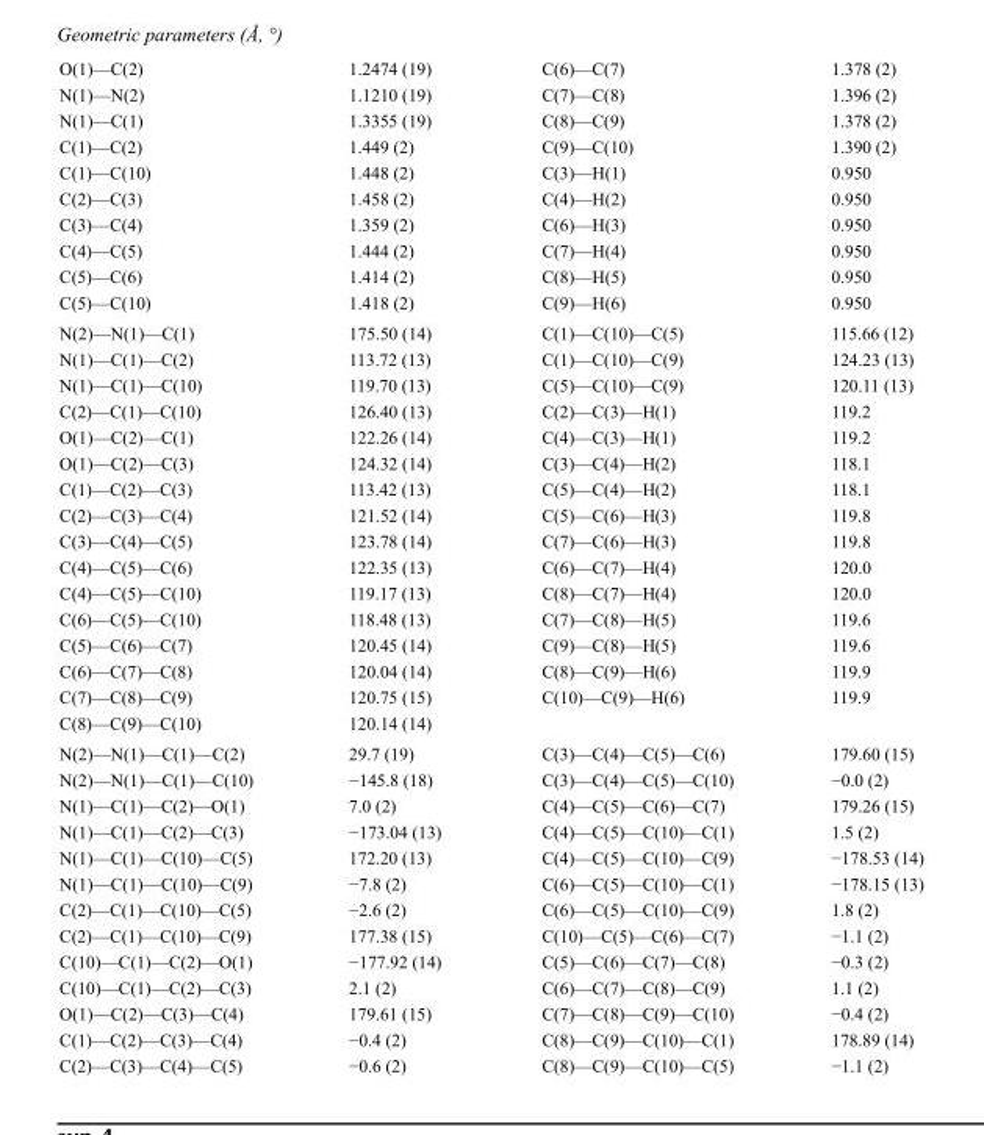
<table><tbody><tr><td>O(1)—C(2)</td><td>1.2474 (19)</td><td>C(6)—C(7)</td><td>1.378 (2)</td></tr><tr><td>N(1)—N(2)</td><td>1.1210 (19)</td><td>C(7)—C(8)</td><td>1.396 (2)</td></tr><tr><td>N(1)—C(1)</td><td>1.3355 (19)</td><td>C(8)—C(9)</td><td>1.378 (2)</td></tr><tr><td>C(1)—C(2)</td><td>1.449 (2)</td><td>C(9)—C(10)</td><td>1.390 (2)</td></tr><tr><td>C(1)—C(10)</td><td>1.448 (2)</td><td>C(3)—H(1)</td><td>0.950</td></tr><tr><td>C(2)—C(3)</td><td>1.458 (2)</td><td>C(4)—H(2)</td><td>0.950</td></tr><tr><td>C(3)—C(4)</td><td>1.359 (2)</td><td>C(6)—H(3)</td><td>0.950</td></tr><tr><td>C(4)—C(5)</td><td>1.444 (2)</td><td>C(7)—H(4)</td><td>0.950</td></tr><tr><td>C(5)—C(6)</td><td>1.414 (2)</td><td>C(8)—H(5)</td><td>0.950</td></tr><tr><td>C(5)—C(10)</td><td>1.418 (2)</td><td>C(9)—H(6)</td><td>0.950</td></tr><tr><td>N(2)—N(1)—C(1)</td><td>175.50 (14)</td><td>C(1)—C(10)—C(5)</td><td>115.66 (12)</td></tr><tr><td>N(1)—C(1)—C(2)</td><td>113.72 (13)</td><td>C(1)—C(10)—C(9)</td><td>124.23 (13)</td></tr><tr><td>N(1)—C(1)—C(10)</td><td>119.70 (13)</td><td>C(5)—C(10)—C(9)</td><td>120.11 (13)</td></tr><tr><td>C(2)—C(1)—C(10)</td><td>126.40 (13)</td><td>C(2)—C(3)—H(1)</td><td>119.2</td></tr><tr><td>O(1)—C(2)—C(1)</td><td>122.26 (14)</td><td>C(4)—C(3)—H(1)</td><td>119.2</td></tr><tr><td>O(1)—C(2)—C(3)</td><td>124.32 (14)</td><td>C(3)—C(4)—H(2)</td><td>118.1</td></tr><tr><td>C(1)—C(2)—C(3)</td><td>113.42 (13)</td><td>C(5)—C(4)—H(2)</td><td>118.1</td></tr><tr><td>C(2)—C(3)—C(4)</td><td>121.52 (14)</td><td>C(5)—C(6)—H(3)</td><td>119.8</td></tr><tr><td>C(3)—C(4)—C(5)</td><td>123.78 (14)</td><td>C(7)—C(6)—H(3)</td><td>119.8</td></tr><tr><td>C(4)—C(5)—C(6)</td><td>122.35 (13)</td><td>C(6)—C(7)—H(4)</td><td>120.0</td></tr><tr><td>C(4)—C(5)—C(10)</td><td>119.17 (13)</td><td>C(8)—C(7)—H(4)</td><td>120.0</td></tr><tr><td>C(6)—C(5)—C(10)</td><td>118.48 (13)</td><td>C(7)—C(8)—H(5)</td><td>119.6</td></tr><tr><td>C(5)—C(6)—C(7)</td><td>120.45 (14)</td><td>C(9)—C(8)—H(5)</td><td>119.6</td></tr><tr><td>C(6)—C(7)—C(8)</td><td>120.04 (14)</td><td>C(8)—C(9)—H(6)</td><td>119.9</td></tr><tr><td>C(7)—C(8)—C(9)</td><td>120.75 (15)</td><td>C(10)—C(9)—H(6)</td><td>119.9</td></tr><tr><td>C(8)—C(9)—C(10)</td><td>120.14 (14)</td><td></td><td></td></tr><tr><td>N(2)—N(1)—C(1)—C(2)</td><td>29.7 (19)</td><td>C(3)—C(4)—C(5)—C(6)</td><td>179.60 (15)</td></tr><tr><td>N(2)—N(1)—C(1)—C(10)</td><td>−145.8 (18)</td><td>C(3)—C(4)—C(5)—C(10)</td><td>−0.0 (2)</td></tr><tr><td>N(1)—C(1)—C(2)—O(1)</td><td>7.0 (2)</td><td>C(4)—C(5)—C(6)—C(7)</td><td>179.26 (15)</td></tr><tr><td>N(1)—C(1)—C(2)—C(3)</td><td>−173.04 (13)</td><td>C(4)—C(5)—C(10)—C(1)</td><td>1.5 (2)</td></tr><tr><td>N(1)—C(1)—C(10)—C(5)</td><td>172.20 (13)</td><td>C(4)—C(5)—C(10)—C(9)</td><td>−178.53 (14)</td></tr><tr><td>N(1)—C(1)—C(10)—C(9)</td><td>−7.8 (2)</td><td>C(6)—C(5)—C(10)—C(1)</td><td>−178.15 (13)</td></tr><tr><td>C(2)—C(1)—C(10)—C(5)</td><td>−2.6 (2)</td><td>C(6)—C(5)—C(10)—C(9)</td><td>1.8 (2)</td></tr><tr><td>C(2)—C(1)—C(10)—C(9)</td><td>177.38 (15)</td><td>C(10)—C(5)—C(6)—C(7)</td><td>−1.1 (2)</td></tr><tr><td>C(10)—C(1)—C(2)—O(1)</td><td>−177.92 (14)</td><td>C(5)—C(6)—C(7)—C(8)</td><td>−0.3 (2)</td></tr><tr><td>C(10)—C(1)—C(2)—C(3)</td><td>2.1 (2)</td><td>C(6)—C(7)—C(8)—C(9)</td><td>1.1 (2)</td></tr><tr><td>O(1)—C(2)—C(3)—C(4)</td><td>179.61 (15)</td><td>C(7)—C(8)—C(9)—C(10)</td><td>−0.4 (2)</td></tr><tr><td>C(1)—C(2)—C(3)—C(4)</td><td>−0.4 (2)</td><td>C(8)—C(9)—C(10)—C(1)</td><td>178.89 (14)</td></tr><tr><td>C(2)—C(3)—C(4)—C(5)</td><td>−0.6 (2)</td><td>C(8)—C(9)—C(10)—C(5)</td><td>−1.1 (2)</td></tr></tbody></table>